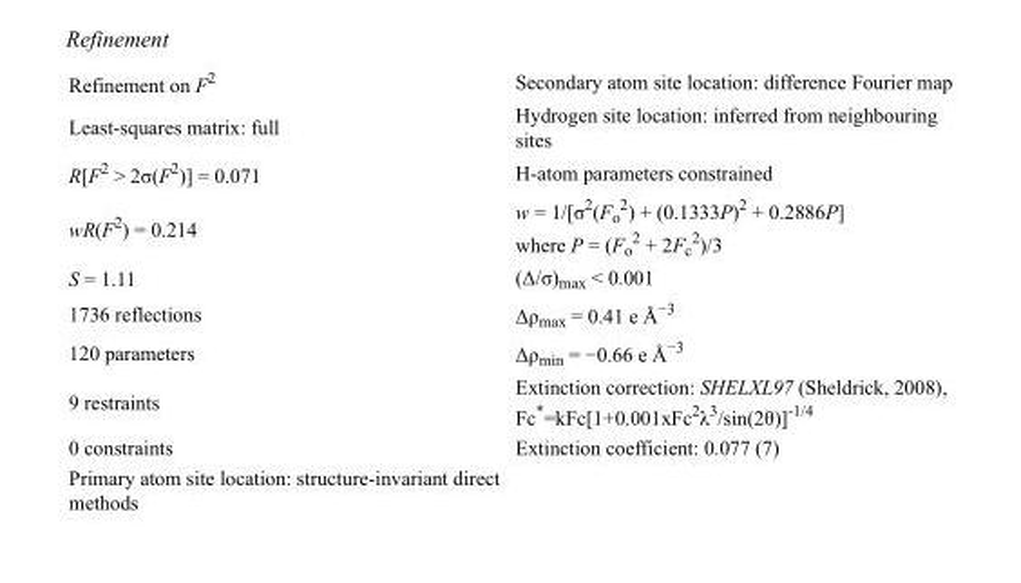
<table><tbody><tr><td>Refinement on F<sup>2</sup></td><td>Secondary atom site location: difference Fourier map</td></tr><tr><td>Least-squares matrix: full</td><td>Hydrogen site location: inferred from neighbouring sites</td></tr><tr><td>R[F<sup>2</sup> &gt; 2σ(F<sup>2</sup>)] = 0.071</td><td>H-atom parameters constrained</td></tr><tr><td>wR(F<sup>2</sup>) = 0.214</td><td>w = 1/[σ<sup>2</sup>(F<sub>o</sub> <sup>2</sup>) + (0.1333P)<sup>2</sup> + 0.2886P] where P = (F<sub>o</sub> <sup>2</sup> + 2F<sub>c</sub> <sup>2</sup>)/3</td></tr><tr><td>S = 1.11</td><td>(Δ/σ)<sub>max</sub> &lt; 0.001</td></tr><tr><td>1736 reflections</td><td>Δρ<sub>max</sub> = 0.41 e Å<sup>−3</sup></td></tr><tr><td>120 parameters</td><td>Δρ<sub>min</sub> = −0.66 e Å<sup>−3</sup></td></tr><tr><td>9 restraints</td><td>Extinction correction: SHELXL97 (Sheldrick, 2008), Fc*=kFc[1+0.001xFc<sup>2</sup>λ<sup>3</sup>/sin(2θ)]<sup>-1/4</sup></td></tr><tr><td>0 constraints</td><td>Extinction coefficient: 0.077 (7)</td></tr><tr><td>Primary atom site location: structure-invariant direct methods</td><td></td></tr></tbody></table>